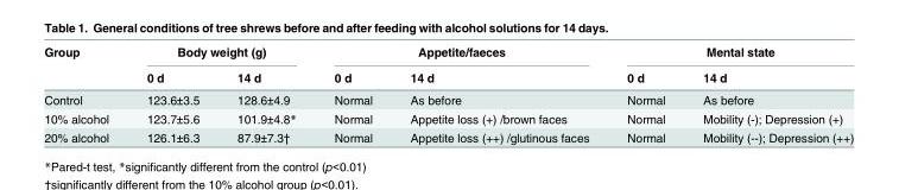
<table><thead><tr><td rowspan="2">Group</td><td colspan="2">Body weight (g)</td><td colspan="2">Appetite/faeces</td><td colspan="2">Mental state</td></tr><tr><td>0 d</td><td>14 d</td><td>0 d</td><td>14 d</td><td>0 d</td><td>14 d</td></tr></thead><tbody><tr><td>Control</td><td>123.6±3.5</td><td>128.6±4.9</td><td>Normal</td><td>As before</td><td>Normal</td><td>As before</td></tr><tr><td>10% alcohol</td><td>123.7±5.6</td><td>101.9±4.8*</td><td>Normal</td><td>Appetite loss (+) /brown faces</td><td>Normal</td><td>Mobility (-); Depression (+)</td></tr><tr><td>20% alcohol</td><td>126.1±6.3</td><td>87.9±7.3†</td><td>Normal</td><td>Appetite loss (++) /glutinous faces</td><td>Normal</td><td>Mobility (--); Depression (++)</td></tr></tbody></table>